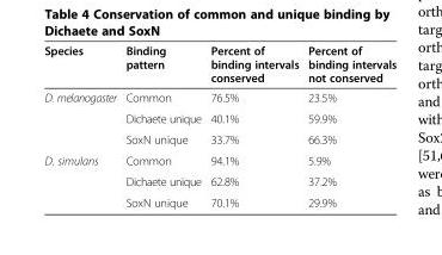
<table><thead><tr><td>Species</td><td>Binding pattern</td><td>Percent of binding intervals conserved</td><td>Percent of binding intervals not conserved</td></tr></thead><tbody><tr><td rowspan="3">D. melanogaster</td><td>Common</td><td>76.5%</td><td>23.5%</td></tr><tr><td>Dichaete unique</td><td>40.1%</td><td>59.9%</td></tr><tr><td>SoxN unique</td><td>33.7%</td><td>66.3%</td></tr><tr><td rowspan="3">D. simulans</td><td>Common</td><td>94.1%</td><td>5.9%</td></tr><tr><td>Dichaete unique</td><td>62.8%</td><td>37.2%</td></tr><tr><td>SoxN unique</td><td>70.1%</td><td>29.9%</td></tr></tbody></table>